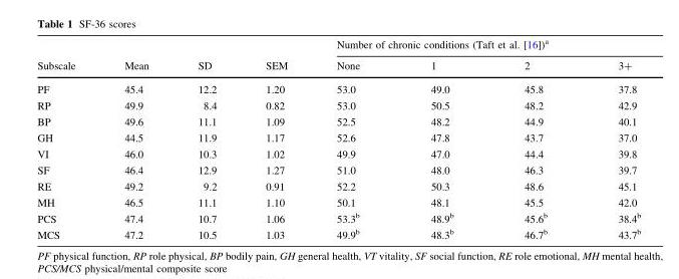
<table><thead><tr><td rowspan="2">Subscale</td><td rowspan="2">Mean</td><td rowspan="2">SD</td><td rowspan="2">SEM</td><td colspan="4">Number of chronic conditions (Taft et al. [16])<sup>a</sup></td></tr><tr><td>None</td><td>1</td><td>2</td><td>3+</td></tr></thead><tbody><tr><td>PF</td><td>45.4</td><td>12.2</td><td>1.20</td><td>53.0</td><td>49.0</td><td>45.8</td><td>37.8</td></tr><tr><td>RP</td><td>49.9</td><td>8.4</td><td>0.82</td><td>53.0</td><td>50.5</td><td>48.2</td><td>42.9</td></tr><tr><td>BP</td><td>49.6</td><td>11.1</td><td>1.09</td><td>52.5</td><td>48.2</td><td>44.9</td><td>40.1</td></tr><tr><td>GH</td><td>44.5</td><td>11.9</td><td>1.17</td><td>52.6</td><td>47.8</td><td>43.7</td><td>37.0</td></tr><tr><td>VI</td><td>46.0</td><td>10.3</td><td>1.02</td><td>49.9</td><td>47.0</td><td>44.4</td><td>39.8</td></tr><tr><td>SF</td><td>46.4</td><td>12.9</td><td>1.27</td><td>51.0</td><td>48.0</td><td>46.3</td><td>39.7</td></tr><tr><td>RE</td><td>49.2</td><td>9.2</td><td>0.91</td><td>52.2</td><td>50.3</td><td>48.6</td><td>45.1</td></tr><tr><td>MH</td><td>46.5</td><td>11.1</td><td>1.10</td><td>50.1</td><td>48.1</td><td>45.5</td><td>42.0</td></tr><tr><td>PCS</td><td>47.4</td><td>10.7</td><td>1.06</td><td>53.3<sup>b</sup></td><td>48.9<sup>b</sup></td><td>45.6<sup>b</sup></td><td>38.4<sup>b</sup></td></tr><tr><td>MCS</td><td>47.2</td><td>10.5</td><td>1.03</td><td>49.9<sup>b</sup></td><td>48.3<sup>b</sup></td><td>46.7<sup>b</sup></td><td>43.7<sup>b</sup></td></tr></tbody></table>